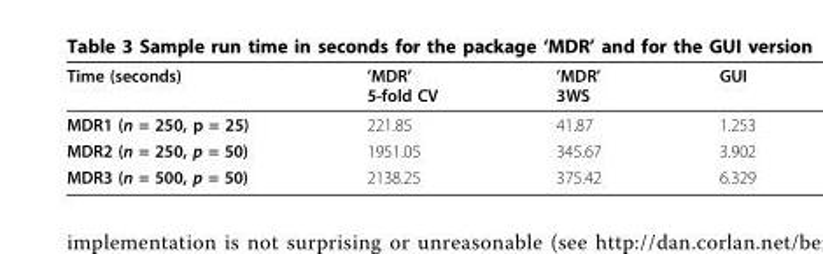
<table><thead><tr><td>Time (seconds)</td><td>’MDR’ 5-fold CV</td><td>’MDR’ 3WS</td><td>GUI</td></tr></thead><tbody><tr><td>MDR1 (n = 250, p = 25)</td><td>221.85</td><td>41.87</td><td>1.253</td></tr><tr><td>MDR2 (n = 250, p = 50)</td><td>1951.05</td><td>345.67</td><td>3.902</td></tr><tr><td>MDR3 (n = 500, p = 50)</td><td>2138.25</td><td>375.42</td><td>6.329</td></tr></tbody></table>